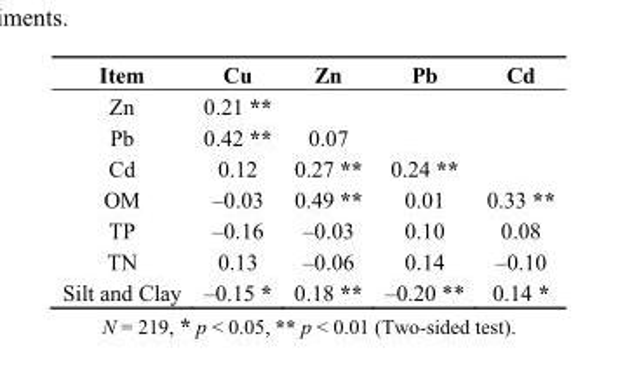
<table><thead><tr><td>Item</td><td>Cu</td><td>Zn</td><td>Pb</td><td>Cd</td></tr></thead><tbody><tr><td>Zn</td><td>0.21 **</td><td></td><td></td><td></td></tr><tr><td>Pb</td><td>0.42 **</td><td>0.07</td><td></td><td></td></tr><tr><td>Cd</td><td>0.12</td><td>0.27 **</td><td>0.24 **</td><td></td></tr><tr><td>OM</td><td>–0.03</td><td>0.49 **</td><td>0.01</td><td>0.33 **</td></tr><tr><td>TP</td><td>–0.16</td><td>–0.03</td><td>0.10</td><td>0.08</td></tr><tr><td>TN</td><td>0.13</td><td>–0.06</td><td>0.14</td><td>–0.10</td></tr><tr><td>Silt and Clay</td><td>–0.15 *</td><td>0.18 **</td><td>–0.20 **</td><td>0.14 *</td></tr></tbody></table>